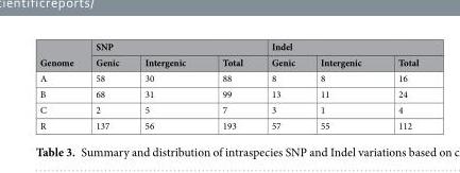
<table><thead><tr><td rowspan="2">Genome</td><td colspan="3">SNP</td><td colspan="3">Indel</td></tr><tr><td>Genic</td><td>Intergenic</td><td>Total</td><td>Genic</td><td>Intergenic</td><td>Total</td></tr></thead><tbody><tr><td>A</td><td>58</td><td>30</td><td>88</td><td>8</td><td>8</td><td>16</td></tr><tr><td>B</td><td>68</td><td>31</td><td>99</td><td>13</td><td>11</td><td>24</td></tr><tr><td>C</td><td>2</td><td>5</td><td>7</td><td>3</td><td>1</td><td>4</td></tr><tr><td>R</td><td>137</td><td>56</td><td>193</td><td>57</td><td>55</td><td>112</td></tr></tbody></table>